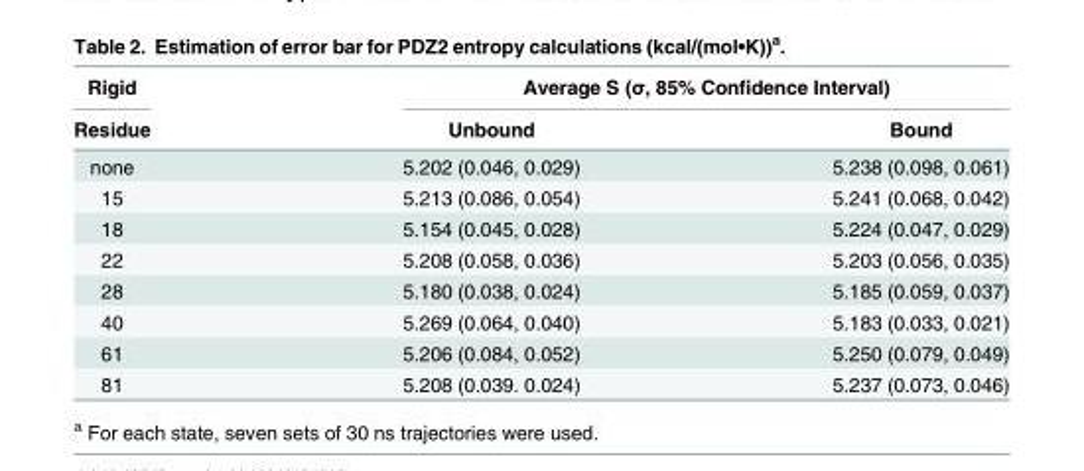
<table><thead><tr><td rowspan="2">Rigid Residue</td><td colspan="2">Average S (σ, 85% Confidence Interval)</td></tr><tr><td>Unbound</td><td>Bound</td></tr></thead><tbody><tr><td>none</td><td>5.202 (0.046, 0.029)</td><td>5.238 (0.098, 0.061)</td></tr><tr><td>15</td><td>5.213 (0.086, 0.054)</td><td>5.241 (0.068, 0.042)</td></tr><tr><td>18</td><td>5.154 (0.045, 0.028)</td><td>5.224 (0.047, 0.029)</td></tr><tr><td>22</td><td>5.208 (0.058, 0.036)</td><td>5.203 (0.056, 0.035)</td></tr><tr><td>28</td><td>5.180 (0.038, 0.024)</td><td>5.185 (0.059, 0.037)</td></tr><tr><td>40</td><td>5.269 (0.064, 0.040)</td><td>5.183 (0.033, 0.021)</td></tr><tr><td>61</td><td>5.206 (0.084, 0.052)</td><td>5.250 (0.079, 0.049)</td></tr><tr><td>81</td><td>5.208 (0.039. 0.024)</td><td>5.237 (0.073, 0.046)</td></tr></tbody></table>